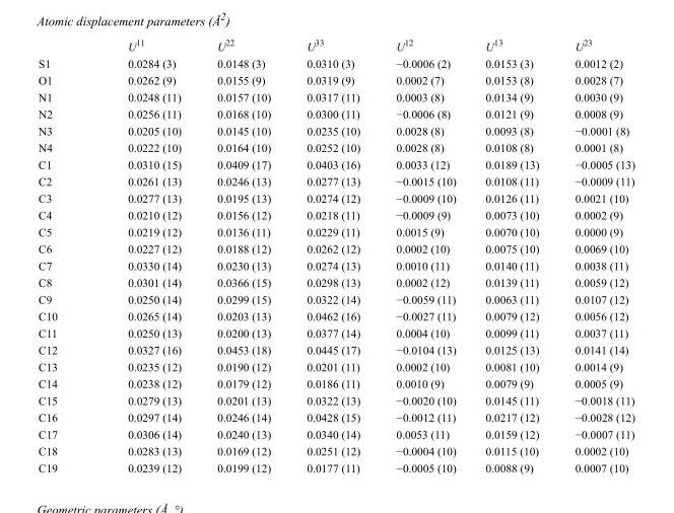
<table><thead><tr><td></td><td>U<sup>11</sup></td><td>U<sup>22</sup></td><td>U<sup>33</sup></td><td>U<sup>12</sup></td><td>U<sup>13</sup></td><td>U<sup>23</sup></td></tr></thead><tbody><tr><td>S1</td><td>0.0284 (3)</td><td>0.0148 (3)</td><td>0.0310 (3)</td><td>−0.0006 (2)</td><td>0.0153 (3)</td><td>0.0012 (2)</td></tr><tr><td>O1</td><td>0.0262 (9)</td><td>0.0155 (9)</td><td>0.0319 (9)</td><td>0.0002 (7)</td><td>0.0153 (8)</td><td>0.0028 (7)</td></tr><tr><td>N1</td><td>0.0248 (11)</td><td>0.0157 (10)</td><td>0.0317 (11)</td><td>0.0003 (8)</td><td>0.0134 (9)</td><td>0.0030 (9)</td></tr><tr><td>N2</td><td>0.0256 (11)</td><td>0.0168 (10)</td><td>0.0300 (11)</td><td>−0.0006 (8)</td><td>0.0121 (9)</td><td>0.0008 (9)</td></tr><tr><td>N3</td><td>0.0205 (10)</td><td>0.0145 (10)</td><td>0.0235 (10)</td><td>0.0028 (8)</td><td>0.0093 (8)</td><td>−0.0001 (8)</td></tr><tr><td>N4</td><td>0.0222 (10)</td><td>0.0164 (10)</td><td>0.0252 (10)</td><td>0.0028 (8)</td><td>0.0108 (8)</td><td>0.0001 (8)</td></tr><tr><td>C1</td><td>0.0310 (15)</td><td>0.0409 (17)</td><td>0.0403 (16)</td><td>0.0033 (12)</td><td>0.0189 (13)</td><td>−0.0005 (13)</td></tr><tr><td>C2</td><td>0.0261 (13)</td><td>0.0246 (13)</td><td>0.0277 (13)</td><td>−0.0015 (10)</td><td>0.0108 (11)</td><td>−0.0009 (11)</td></tr><tr><td>C3</td><td>0.0277 (13)</td><td>0.0195 (13)</td><td>0.0274 (12)</td><td>−0.0009 (10)</td><td>0.0126 (11)</td><td>0.0021 (10)</td></tr><tr><td>C4</td><td>0.0210 (12)</td><td>0.0156 (12)</td><td>0.0218 (11)</td><td>−0.0009 (9)</td><td>0.0073 (10)</td><td>0.0002 (9)</td></tr><tr><td>C5</td><td>0.0219 (12)</td><td>0.0136 (11)</td><td>0.0229 (11)</td><td>0.0015 (9)</td><td>0.0070 (10)</td><td>0.0000 (9)</td></tr><tr><td>C6</td><td>0.0227 (12)</td><td>0.0188 (12)</td><td>0.0262 (12)</td><td>0.0002 (10)</td><td>0.0075 (10)</td><td>0.0069 (10)</td></tr><tr><td>C7</td><td>0.0330 (14)</td><td>0.0230 (13)</td><td>0.0274 (13)</td><td>0.0010 (11)</td><td>0.0140 (11)</td><td>0.0038 (11)</td></tr><tr><td>C8</td><td>0.0301 (14)</td><td>0.0366 (15)</td><td>0.0298 (13)</td><td>0.0002 (12)</td><td>0.0139 (11)</td><td>0.0059 (12)</td></tr><tr><td>C9</td><td>0.0250 (14)</td><td>0.0299 (15)</td><td>0.0322 (14)</td><td>−0.0059 (11)</td><td>0.0063 (11)</td><td>0.0107 (12)</td></tr><tr><td>C10</td><td>0.0265 (14)</td><td>0.0203 (13)</td><td>0.0462 (16)</td><td>−0.0027 (11)</td><td>0.0079 (12)</td><td>0.0056 (12)</td></tr><tr><td>C11</td><td>0.0250 (13)</td><td>0.0200 (13)</td><td>0.0377 (14)</td><td>0.0004 (10)</td><td>0.0099 (11)</td><td>0.0037 (11)</td></tr><tr><td>C12</td><td>0.0327 (16)</td><td>0.0453 (18)</td><td>0.0445 (17)</td><td>−0.0104 (13)</td><td>0.0125 (13)</td><td>0.0141 (14)</td></tr><tr><td>C13</td><td>0.0235 (12)</td><td>0.0190 (12)</td><td>0.0201 (11)</td><td>0.0002 (10)</td><td>0.0081 (10)</td><td>0.0014 (9)</td></tr><tr><td>C14</td><td>0.0238 (12)</td><td>0.0179 (12)</td><td>0.0186 (11)</td><td>0.0010 (9)</td><td>0.0079 (9)</td><td>0.0005 (9)</td></tr><tr><td>C15</td><td>0.0279 (13)</td><td>0.0201 (13)</td><td>0.0322 (13)</td><td>−0.0020 (10)</td><td>0.0145 (11)</td><td>−0.0018 (11)</td></tr><tr><td>C16</td><td>0.0297 (14)</td><td>0.0246 (14)</td><td>0.0428 (15)</td><td>−0.0012 (11)</td><td>0.0217 (12)</td><td>−0.0028 (12)</td></tr><tr><td>C17</td><td>0.0306 (14)</td><td>0.0240 (13)</td><td>0.0340 (14)</td><td>0.0053 (11)</td><td>0.0159 (12)</td><td>−0.0007 (11)</td></tr><tr><td>C18</td><td>0.0283 (13)</td><td>0.0169 (12)</td><td>0.0251 (12)</td><td>−0.0004 (10)</td><td>0.0115 (10)</td><td>0.0002 (10)</td></tr><tr><td>C19</td><td>0.0239 (12)</td><td>0.0199 (12)</td><td>0.0177 (11)</td><td>−0.0005 (10)</td><td>0.0088 (9)</td><td>0.0007 (10)</td></tr></tbody></table>